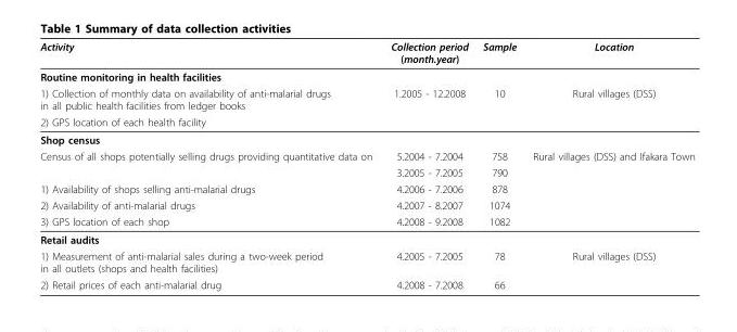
<table><thead><tr><td>Activity</td><td>Collection period (month.year)</td><td>Sample</td><td>Location</td></tr></thead><tbody><tr><td colspan="4">Routine monitoring in health facilities</td></tr><tr><td>1) Collection of monthly data on availability of anti-malarial drugs in all public health facilities from ledger books</td><td>1.2005 - 12.2008</td><td>10</td><td>Rural villages (DSS)</td></tr><tr><td colspan="4">2) GPS location of each health facility</td></tr><tr><td colspan="4">Shop census</td></tr><tr><td rowspan="2">Census of all shops potentially selling drugs providing quantitative data on</td><td>5.2004 - 7.2004</td><td>758</td><td>Rural villages (DSS) and Ifakara Town</td></tr><tr><td>3.2005 - 7.2005</td><td>790</td><td></td></tr><tr><td>1) Availability of shops selling anti-malarial drugs</td><td>4.2006 - 7.2006</td><td>878</td><td></td></tr><tr><td>2) Availability of anti-malarial drugs</td><td>4.2007 - 8.2007</td><td>1074</td><td></td></tr><tr><td>3) GPS location of each shop</td><td>4.2008 - 9.2008</td><td>1082</td><td></td></tr><tr><td colspan="4">Retail audits</td></tr><tr><td>1) Measurement of anti-malarial sales during a two-week period in all outlets (shops and health facilities)</td><td>4.2005 - 7.2005</td><td>78</td><td>Rural villages (DSS)</td></tr><tr><td>2) Retail prices of each anti-malarial drug</td><td>4.2008 - 7.2008</td><td>66</td><td></td></tr></tbody></table>